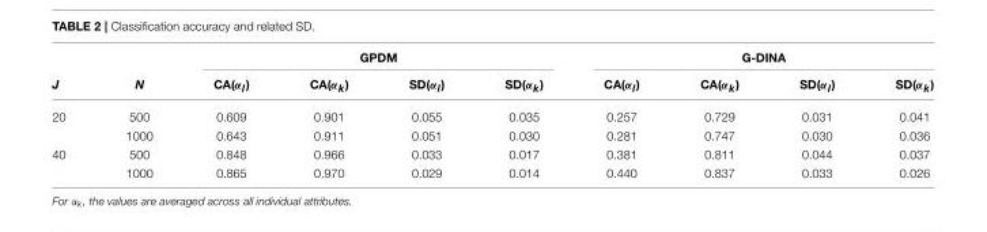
<table><thead><tr><td rowspan="2">J</td><td rowspan="2">N</td><td colspan="4">GPDM</td><td colspan="4">G-DINA</td></tr><tr><td>CA(αl)</td><td>CA(αk)</td><td>SD(αl)</td><td>SD(αk)</td><td>CA(αl)</td><td>CA(αk)</td><td>SD(αl)</td><td>SD(αk)</td></tr></thead><tbody><tr><td rowspan="2">20</td><td>500</td><td>0.609</td><td>0.901</td><td>0.055</td><td>0.035</td><td>0.257</td><td>0.729</td><td>0.031</td><td>0.041</td></tr><tr><td>1000</td><td>0.643</td><td>0.911</td><td>0.051</td><td>0.030</td><td>0.281</td><td>0.747</td><td>0.030</td><td>0.036</td></tr><tr><td rowspan="2">40</td><td>500</td><td>0.848</td><td>0.966</td><td>0.033</td><td>0.017</td><td>0.381</td><td>0.811</td><td>0.044</td><td>0.037</td></tr><tr><td>1000</td><td>0.865</td><td>0.970</td><td>0.029</td><td>0.014</td><td>0.440</td><td>0.837</td><td>0.033</td><td>0.026</td></tr></tbody></table>